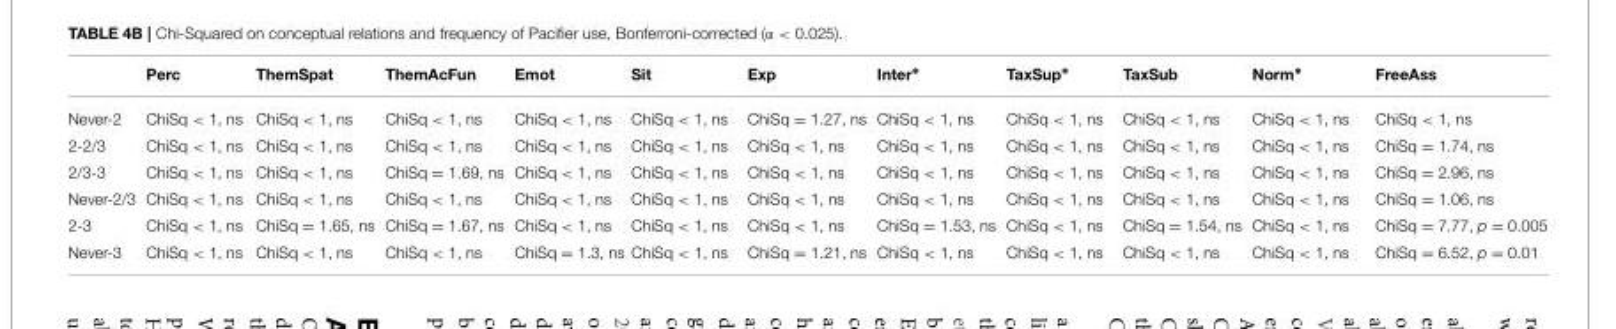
<table><thead><tr><td></td><td>Perc</td><td>ThemSpat</td><td>ThemAcFun</td><td>Emot</td><td>Sit</td><td>Exp</td><td>Inter∗</td><td>TaxSup∗</td><td>TaxSub</td><td>Norm∗</td><td>FreeAss</td></tr></thead><tbody><tr><td>Never-2</td><td>ChiSq &lt; 1, ns</td><td>ChiSq &lt; 1, ns</td><td>ChiSq &lt; 1, ns</td><td>ChiSq &lt; 1, ns</td><td>ChiSq &lt; 1, ns</td><td>ChiSq = 1.27, ns</td><td>ChiSq &lt; 1, ns</td><td>ChiSq &lt; 1, ns</td><td>ChiSq &lt; 1, ns</td><td>ChiSq &lt; 1, ns</td><td>ChiSq &lt; 1, ns</td></tr><tr><td>2-2/3</td><td>ChiSq &lt; 1, ns</td><td>ChiSq &lt; 1, ns</td><td>ChiSq &lt; 1, ns</td><td>ChiSq &lt; 1, ns</td><td>ChiSq &lt; 1, ns</td><td>ChiSq &lt; 1, ns</td><td>ChiSq &lt; 1, ns</td><td>ChiSq &lt; 1, ns</td><td>ChiSq &lt; 1, ns</td><td>ChiSq &lt; 1, ns</td><td>ChiSq = 1.74, ns</td></tr><tr><td>2/3-3</td><td>ChiSq &lt; 1, ns</td><td>ChiSq &lt; 1, ns</td><td>ChiSq = 1.69, ns</td><td>ChiSq &lt; 1, ns</td><td>ChiSq &lt; 1, ns</td><td>ChiSq &lt; 1, ns</td><td>ChiSq &lt; 1, ns</td><td>ChiSq &lt; 1, ns</td><td>ChiSq &lt; 1, ns</td><td>ChiSq &lt; 1, ns</td><td>ChiSq = 2.96, ns</td></tr><tr><td>Never-2/3</td><td>ChiSq &lt; 1, ns</td><td>ChiSq &lt; 1, ns</td><td>ChiSq &lt; 1, ns</td><td>ChiSq &lt; 1, ns</td><td>ChiSq &lt; 1, ns</td><td>ChiSq &lt; 1, ns</td><td>ChiSq &lt; 1, ns</td><td>ChiSq &lt; 1, ns</td><td>ChiSq &lt; 1, ns</td><td>ChiSq &lt; 1, ns</td><td>ChiSq = 1.06, ns</td></tr><tr><td>2-3</td><td>ChiSq &lt; 1, ns</td><td>ChiSq = 1.65, ns</td><td>ChiSq = 1.67, ns</td><td>ChiSq &lt; 1, ns</td><td>ChiSq &lt; 1, ns</td><td>ChiSq &lt; 1, ns</td><td>ChiSq = 1.53, ns</td><td>ChiSq &lt; 1, ns</td><td>ChiSq = 1.54, ns</td><td>ChiSq &lt; 1, ns</td><td>ChiSq = 7.77, p = 0.005</td></tr><tr><td>Never-3</td><td>ChiSq &lt; 1, ns</td><td>ChiSq &lt; 1, ns</td><td>ChiSq &lt; 1, ns</td><td>ChiSq = 1.3, ns</td><td>ChiSq &lt; 1, ns</td><td>ChiSq = 1.21, ns</td><td>ChiSq &lt; 1, ns</td><td>ChiSq &lt; 1, ns</td><td>ChiSq &lt; 1, ns</td><td>ChiSq &lt; 1, ns</td><td>ChiSq = 6.52, p = 0.01</td></tr></tbody></table>